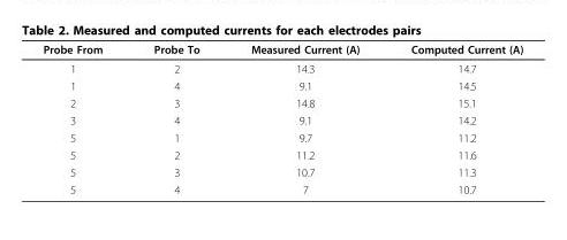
<table><thead><tr><td>Probe From</td><td>Probe To</td><td>Measured Current (A)</td><td>Computed Current (A)</td></tr></thead><tbody><tr><td>1</td><td>2</td><td>14.3</td><td>14.7</td></tr><tr><td>1</td><td>4</td><td>9.1</td><td>14.5</td></tr><tr><td>2</td><td>3</td><td>14.8</td><td>15.1</td></tr><tr><td>3</td><td>4</td><td>9.1</td><td>14.2</td></tr><tr><td>5</td><td>1</td><td>9.7</td><td>11.2</td></tr><tr><td>5</td><td>2</td><td>11.2</td><td>11.6</td></tr><tr><td>5</td><td>3</td><td>10.7</td><td>11.3</td></tr><tr><td>5</td><td>4</td><td>7</td><td>10.7</td></tr></tbody></table>